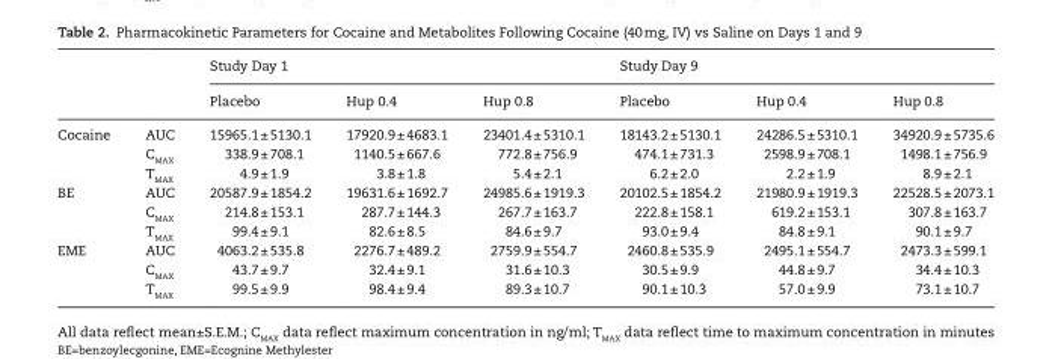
<table><thead><tr><td rowspan="2"></td><td rowspan="2"></td><td colspan="3">Study Day 1</td><td colspan="3">Study Day 9</td></tr><tr><td>Placebo</td><td>Hup 0.4</td><td>Hup 0.8</td><td>Placebo</td><td>Hup 0.4</td><td>Hup 0.8</td></tr></thead><tbody><tr><td rowspan="3">Cocaine</td><td>AUC</td><td>15965.1 ± 5130.1</td><td>17920.9 ± 4683.1</td><td>23401.4 ± 5310.1</td><td>18143.2 ± 5130.1</td><td>24286.5 ± 5310.1</td><td>34920.9 ± 5735.6</td></tr><tr><td>C<sub>MAX</sub></td><td>338.9 ± 708.1</td><td>1140.5 ± 667.6</td><td>772.8 ± 756.9</td><td>474.1 ± 731.3</td><td>2598.9 ± 708.1</td><td>1498.1 ± 756.9</td></tr><tr><td>T<sub>MAX</sub></td><td>4.9 ± 1.9</td><td>3.8 ± 1.8</td><td>5.4 ± 2.1</td><td>6.2 ± 2.0</td><td>2.2 ± 1.9</td><td>8.9 ± 2.1</td></tr><tr><td rowspan="3">BE</td><td>AUC</td><td>20587.9 ± 1854.2</td><td>19631.6 ± 1692.7</td><td>24985.6 ± 1919.3</td><td>20102.5 ± 1854.2</td><td>21980.9 ± 1919.3</td><td>22528.5 ± 2073.1</td></tr><tr><td>C<sub>MAX</sub></td><td>214.8 ± 153.1</td><td>287.7 ± 144.3</td><td>267.7 ± 163.7</td><td>222.8 ± 158.1</td><td>619.2 ± 153.1</td><td>307.8 ± 163.7</td></tr><tr><td>T<sub>MAX</sub></td><td>99.4 ± 9.1</td><td>82.6 ± 8.5</td><td>84.6 ± 9.7</td><td>93.0 ± 9.4</td><td>84.8 ± 9.1</td><td>90.1 ± 9.7</td></tr><tr><td rowspan="3">EME</td><td>AUC</td><td>4063.2 ± 535.8</td><td>2276.7 ± 489.2</td><td>2759.9 ± 554.7</td><td>2460.8 ± 535.9</td><td>2495.1 ± 554.7</td><td>2473.3 ± 599.1</td></tr><tr><td>C<sub>MAX</sub></td><td>43.7 ± 9.7</td><td>32.4 ± 9.1</td><td>31.6 ± 10.3</td><td>30.5 ± 9.9</td><td>44.8 ± 9.7</td><td>34.4 ± 10.3</td></tr><tr><td>T<sub>MAX</sub></td><td>99.5 ± 9.9</td><td>98.4 ± 9.4</td><td>89.3 ± 10.7</td><td>90.1 ± 10.3</td><td>57.0 ± 9.9</td><td>73.1 ± 10.7</td></tr></tbody></table>